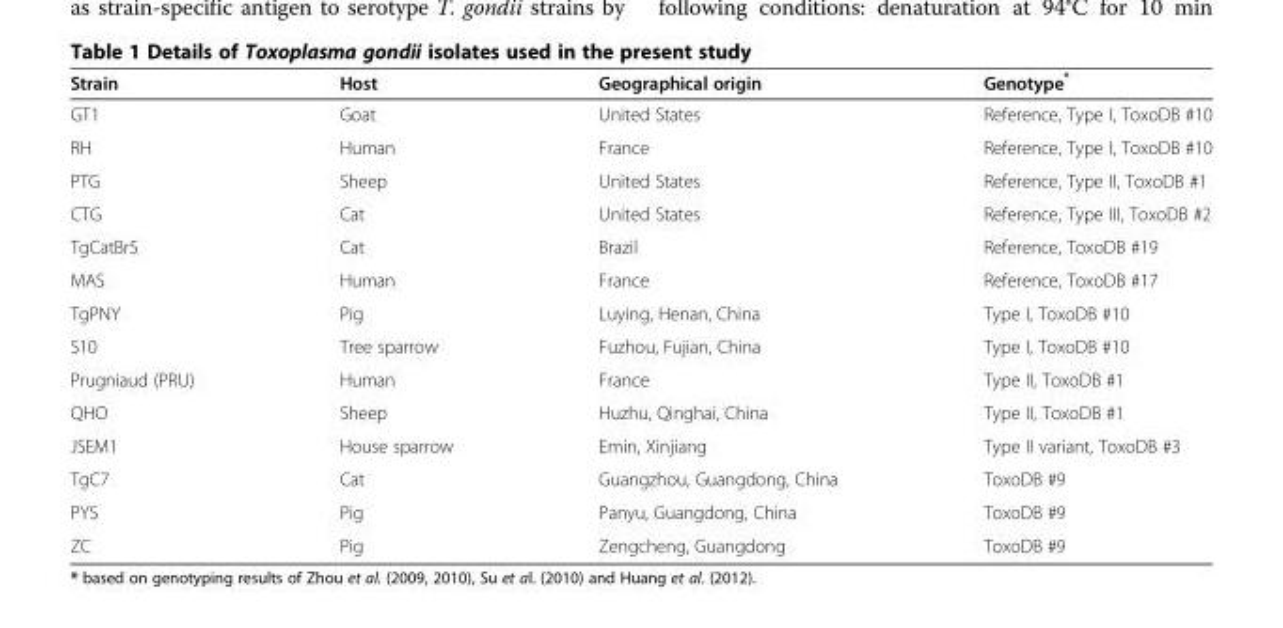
<table><thead><tr><td>Strain</td><td>Host</td><td>Geographical origin</td><td>Genotype*</td></tr></thead><tbody><tr><td>GT1</td><td>Goat</td><td>United States</td><td>Reference, Type I, ToxoDB #10</td></tr><tr><td>RH</td><td>Human</td><td>France</td><td>Reference, Type I, ToxoDB #10</td></tr><tr><td>PTG</td><td>Sheep</td><td>United States</td><td>Reference, Type II, ToxoDB #1</td></tr><tr><td>CTG</td><td>Cat</td><td>United States</td><td>Reference, Type III, ToxoDB #2</td></tr><tr><td>TgCatBr5</td><td>Cat</td><td>Brazil</td><td>Reference, ToxoDB #19</td></tr><tr><td>MAS</td><td>Human</td><td>France</td><td>Reference, ToxoDB #17</td></tr><tr><td>TgPNY</td><td>Pig</td><td>Luying, Henan, China</td><td>Type I, ToxoDB #10</td></tr><tr><td>S10</td><td>Tree sparrow</td><td>Fuzhou, Fujian, China</td><td>Type I, ToxoDB #10</td></tr><tr><td>Prugniaud (PRU)</td><td>Human</td><td>France</td><td>Type II, ToxoDB #1</td></tr><tr><td>QHO</td><td>Sheep</td><td>Huzhu, Qinghai, China</td><td>Type II, ToxoDB #1</td></tr><tr><td>JSEM1</td><td>House sparrow</td><td>Emin, Xinjiang</td><td>Type II variant, ToxoDB #3</td></tr><tr><td>TgC7</td><td>Cat</td><td>Guangzhou, Guangdong, China</td><td>ToxoDB #9</td></tr><tr><td>PYS</td><td>Pig</td><td>Panyu, Guangdong, China</td><td>ToxoDB #9</td></tr><tr><td>ZC</td><td>Pig</td><td>Zengcheng, Guangdong</td><td>ToxoDB #9</td></tr></tbody></table>